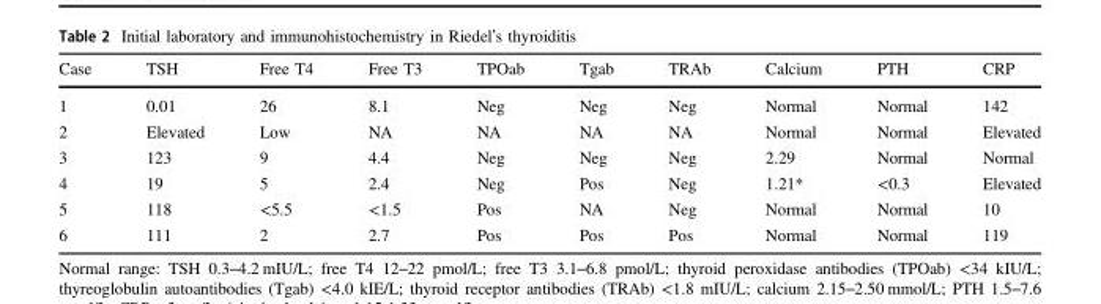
<table><thead><tr><td>Case</td><td>TSH</td><td>Free T4</td><td>Free T3</td><td>TPOab</td><td>Tgab</td><td>TRAb</td><td>Calcium</td><td>PTH</td><td>CRP</td></tr></thead><tbody><tr><td>1</td><td>0.01</td><td>26</td><td>8.1</td><td>Neg</td><td>Neg</td><td>Neg</td><td>Normal</td><td>Normal</td><td>142</td></tr><tr><td>2</td><td>Elevated</td><td>Low</td><td>NA</td><td>NA</td><td>NA</td><td>NA</td><td>Normal</td><td>Normal</td><td>Elevated</td></tr><tr><td>3</td><td>123</td><td>9</td><td>4.4</td><td>Neg</td><td>Neg</td><td>Neg</td><td>2.29</td><td>Normal</td><td>Normal</td></tr><tr><td>4</td><td>19</td><td>5</td><td>2.4</td><td>Neg</td><td>Pos</td><td>Neg</td><td>1.21*</td><td>&lt;0.3</td><td>Elevated</td></tr><tr><td>5</td><td>118</td><td>&lt;5.5</td><td>&lt;1.5</td><td>Pos</td><td>NA</td><td>Neg</td><td>Normal</td><td>Normal</td><td>10</td></tr><tr><td>6</td><td>111</td><td>2</td><td>2.7</td><td>Pos</td><td>Pos</td><td>Pos</td><td>Normal</td><td>Normal</td><td>119</td></tr></tbody></table>